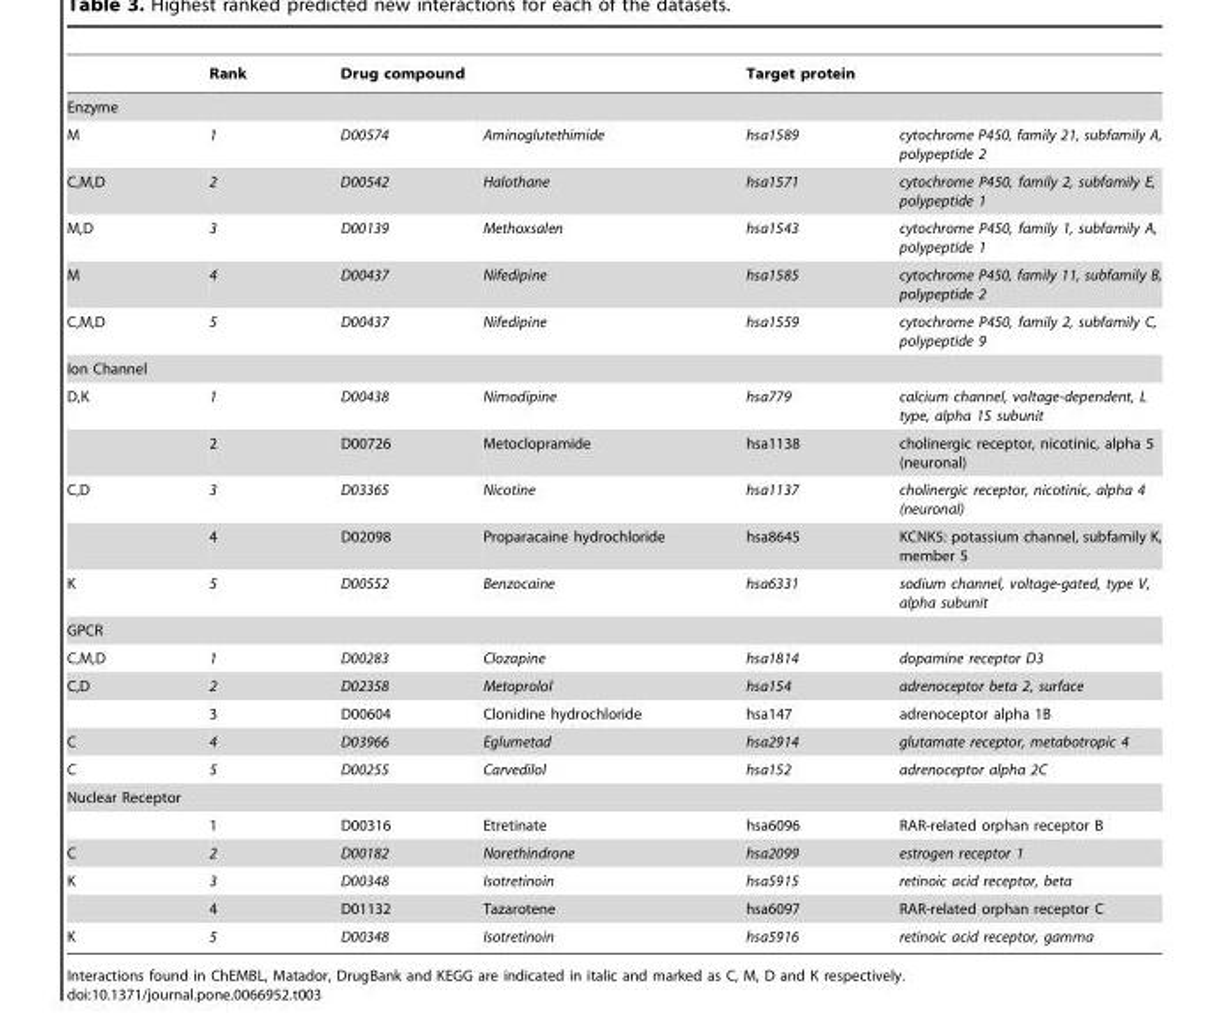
<table><thead><tr><td></td><td>Rank</td><td colspan="2">Drug compound</td><td colspan="2">Target protein</td></tr><tr><td colspan="6">Enzyme</td></tr><tr><td>M</td><td>1</td><td>D00574</td><td>Aminoglutethimide</td><td>hsa1589</td><td>cytochrome P450, family 21, subfamily A, polypeptide 2</td></tr></thead><tbody><tr><td>C,M,D</td><td>2</td><td>D00542</td><td>Halothane</td><td>hsa1571</td><td>cytochrome P450, family 2, subfamily E, polypeptide 1</td></tr><tr><td>M,D</td><td>3</td><td>D00139</td><td>Methoxsalen</td><td>hsa1543</td><td>cytochrome P450, family 1, subfamily A, polypeptide 1</td></tr><tr><td>M</td><td>4</td><td>D00437</td><td>Nifedipine</td><td>hsa1585</td><td>cytochrome P450, family 11, subfamily B, polypeptide 2</td></tr><tr><td>C,M,D</td><td>5</td><td>D00437</td><td>Nifedipine</td><td>hsa1559</td><td>cytochrome P450, family 2, subfamily C, polypeptide 9</td></tr><tr><td colspan="6">Ion Channel</td></tr><tr><td rowspan="2">D,K</td><td>1</td><td>D00438</td><td>Nimodipine</td><td>hsa779</td><td>calcium channel, voltage-dependent, L type, alpha 1S subunit</td></tr><tr><td>2</td><td>D00726</td><td>Metoclopramide</td><td>hsa1138</td><td>cholinergic receptor, nicotinic, alpha 5 (neuronal)</td></tr><tr><td rowspan="2">C,D</td><td>3</td><td>D03365</td><td>Nicotine</td><td>hsa1137</td><td>cholinergic receptor, nicotinic, alpha 4 (neuronal)</td></tr><tr><td>4</td><td>D02098</td><td>Proparacaine hydrochloride</td><td>hsa8645</td><td>KCNK5: potassium channel, subfamily K, member 5</td></tr><tr><td>K</td><td>5</td><td>D00552</td><td>Benzocaine</td><td>hsa6331</td><td>sodium channel, voltage-gated, type V, alpha subunit</td></tr><tr><td colspan="6">GPCR</td></tr><tr><td>C,M,D</td><td>1</td><td>D00283</td><td>Clozapine</td><td>hsa1814</td><td>dopamine receptor D3</td></tr><tr><td rowspan="2">C,D</td><td>2</td><td>D02358</td><td>Metoprolol</td><td>hsa154</td><td>adrenoceptor beta 2, surface</td></tr><tr><td>3</td><td>D00604</td><td>Clonidine hydrochloride</td><td>hsa147</td><td>adrenoceptor alpha 1B</td></tr><tr><td>C</td><td>4</td><td>D03966</td><td>Eglumetad</td><td>hsa2914</td><td>glutamate receptor, metabotropic 4</td></tr><tr><td>C</td><td>5</td><td>D00255</td><td>Carvedilol</td><td>hsa152</td><td>adrenoceptor alpha 2C</td></tr><tr><td colspan="6">Nuclear Receptor</td></tr><tr><td></td><td>1</td><td>D00316</td><td>Etretinate</td><td>hsa6096</td><td>RAR-related orphan receptor B</td></tr><tr><td>C</td><td>2</td><td>D00182</td><td>Norethindrone</td><td>hsa2099</td><td>estrogen receptor 1</td></tr><tr><td rowspan="2">K</td><td>3</td><td>D00348</td><td>Isotretinoin</td><td>hsa5915</td><td>retinoic acid receptor, beta</td></tr><tr><td>4</td><td>D01132</td><td>Tazarotene</td><td>hsa6097</td><td>RAR-related orphan receptor C</td></tr><tr><td>K</td><td>5</td><td>D00348</td><td>Isotretinoin</td><td>hsa5916</td><td>retinoic acid receptor, gamma</td></tr></tbody></table>